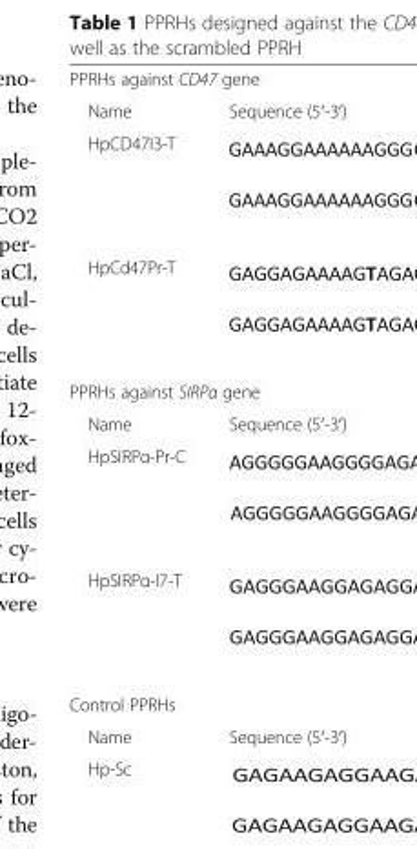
<table><tbody><tr><td colspan="2">PPRHs against CD47 gene</td></tr><tr><td>Name</td><td>Sequence (5′-3′)</td></tr><tr><td colspan="2">HpCD47I3-T</td></tr><tr><td colspan="2">HpCd47Pr-T</td></tr><tr><td colspan="2">PPRHs against SIRPα gene</td></tr><tr><td>Name</td><td>Sequence (5′-3′)</td></tr><tr><td colspan="2">HpSIRPα-Pr-C</td></tr><tr><td colspan="2">HpSIRPα-I7-T</td></tr><tr><td colspan="2">Control PPRHs</td></tr><tr><td>Name</td><td>Sequence (5′-3′)</td></tr><tr><td>Hp-Sc</td><td></td></tr></tbody></table>